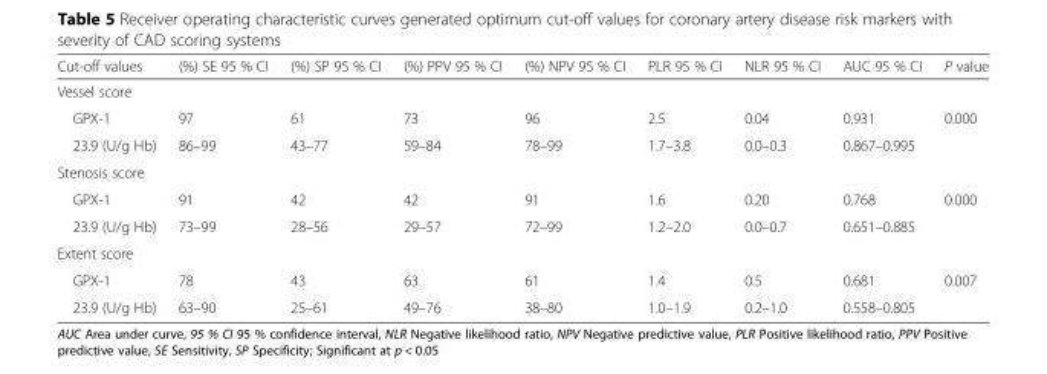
<table><thead><tr><td>Cut-off values</td><td>(%) SE 95 % CI</td><td>(%) SP 95 % CI</td><td>(%) PPV 95 % CI</td><td>(%) NPV 95 % CI</td><td>PLR 95 % CI</td><td>NLR 95 % CI</td><td>AUC 95 % CI</td><td>P value</td></tr></thead><tbody><tr><td colspan="9">Vessel score</td></tr><tr><td>GPX-1</td><td>97</td><td>61</td><td>73</td><td>96</td><td>2.5</td><td>0.04</td><td>0.931</td><td rowspan="2">0.000</td></tr><tr><td>23.9 (U/g Hb)</td><td>86–99</td><td>43–77</td><td>59–84</td><td>78–99</td><td>1.7–3.8</td><td>0.0–0.3</td><td>0.867–0.995</td></tr><tr><td colspan="9">Stenosis score</td></tr><tr><td>GPX-1</td><td>91</td><td>42</td><td>42</td><td>91</td><td>1.6</td><td>0.20</td><td>0.768</td><td rowspan="2">0.000</td></tr><tr><td>23.9 (U/g Hb)</td><td>73–99</td><td>28–56</td><td>29–57</td><td>72–99</td><td>1.2–2.0</td><td>0.0–0.7</td><td>0.651–0.885</td></tr><tr><td colspan="9">Extent score</td></tr><tr><td>GPX-1</td><td>78</td><td>43</td><td>63</td><td>61</td><td>1.4</td><td>0.5</td><td>0.681</td><td rowspan="2">0.007</td></tr><tr><td>23.9 (U/g Hb)</td><td>63–90</td><td>25–61</td><td>49–76</td><td>38–80</td><td>1.0–1.9</td><td>0.2–1.0</td><td>0.558–0.805</td></tr></tbody></table>